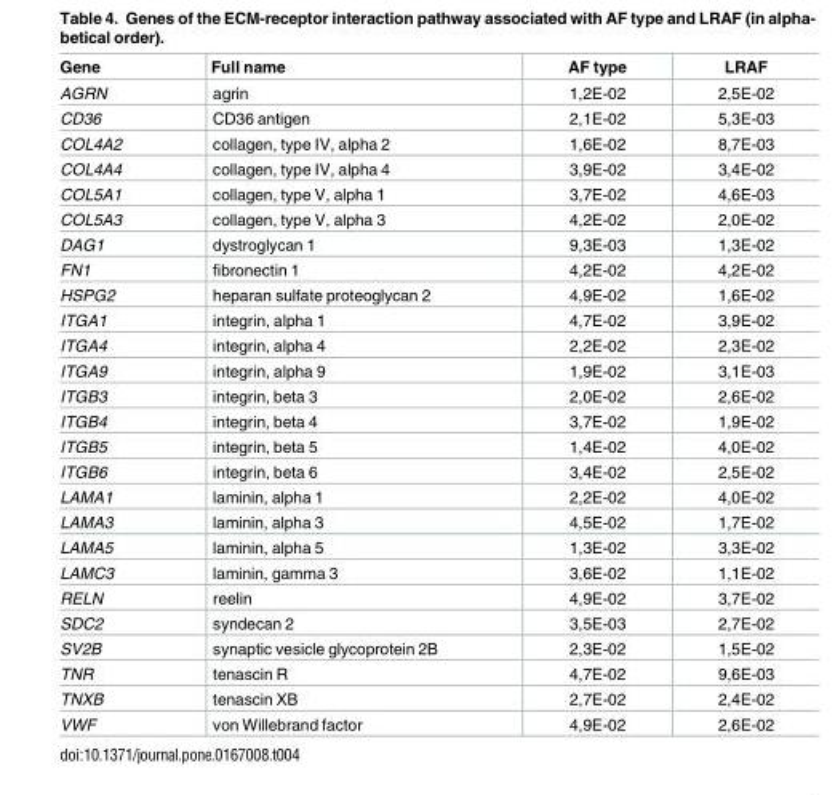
<table><thead><tr><td>Gene</td><td>Full name</td><td>AF type</td><td>LRAF</td></tr></thead><tbody><tr><td>AGRN</td><td>agrin</td><td>1,2E-02</td><td>2,5E-02</td></tr><tr><td>CD36</td><td>CD36 antigen</td><td>2,1E-02</td><td>5,3E-03</td></tr><tr><td>COL4A2</td><td>collagen, type IV, alpha 2</td><td>1,6E-02</td><td>8,7E-03</td></tr><tr><td>COL4A4</td><td>collagen, type IV, alpha 4</td><td>3,9E-02</td><td>3,4E-02</td></tr><tr><td>COL5A1</td><td>collagen, type V, alpha 1</td><td>3,7E-02</td><td>4,6E-03</td></tr><tr><td>COL5A3</td><td>collagen, type V, alpha 3</td><td>4,2E-02</td><td>2,0E-02</td></tr><tr><td>DAG1</td><td>dystroglycan 1</td><td>9,3E-03</td><td>1,3E-02</td></tr><tr><td>FN1</td><td>fibronectin 1</td><td>4,2E-02</td><td>4,2E-02</td></tr><tr><td>HSPG2</td><td>heparan sulfate proteoglycan 2</td><td>4,9E-02</td><td>1,6E-02</td></tr><tr><td>ITGA1</td><td>integrin, alpha 1</td><td>4,7E-02</td><td>3,9E-02</td></tr><tr><td>ITGA4</td><td>integrin, alpha 4</td><td>2,2E-02</td><td>2,3E-02</td></tr><tr><td>ITGA9</td><td>integrin, alpha 9</td><td>1,9E-02</td><td>3,1E-03</td></tr><tr><td>ITGB3</td><td>integrin, beta 3</td><td>2,0E-02</td><td>2,6E-02</td></tr><tr><td>ITGB4</td><td>integrin, beta 4</td><td>3,7E-02</td><td>1,9E-02</td></tr><tr><td>ITGB5</td><td>integrin, beta 5</td><td>1,4E-02</td><td>4,0E-02</td></tr><tr><td>ITGB6</td><td>integrin, beta 6</td><td>3,4E-02</td><td>2,5E-02</td></tr><tr><td>LAMA1</td><td>laminin, alpha 1</td><td>2,2E-02</td><td>4,0E-02</td></tr><tr><td>LAMA3</td><td>laminin, alpha 3</td><td>4,5E-02</td><td>1,7E-02</td></tr><tr><td>LAMA5</td><td>laminin, alpha 5</td><td>1,3E-02</td><td>3,3E-02</td></tr><tr><td>LAMC3</td><td>laminin, gamma 3</td><td>3,6E-02</td><td>1,1E-02</td></tr><tr><td>RELN</td><td>reelin</td><td>4,9E-02</td><td>3,7E-02</td></tr><tr><td>SDC2</td><td>syndecan 2</td><td>3,5E-03</td><td>2,7E-02</td></tr><tr><td>SV2B</td><td>synaptic vesicle glycoprotein 2B</td><td>2,3E-02</td><td>1,5E-02</td></tr><tr><td>TNR</td><td>tenascin R</td><td>4,7E-02</td><td>9,6E-03</td></tr><tr><td>TNXB</td><td>tenascin XB</td><td>2,7E-02</td><td>2,4E-02</td></tr><tr><td>VWF</td><td>von Willebrand factor</td><td>4,9E-02</td><td>2,6E-02</td></tr></tbody></table>